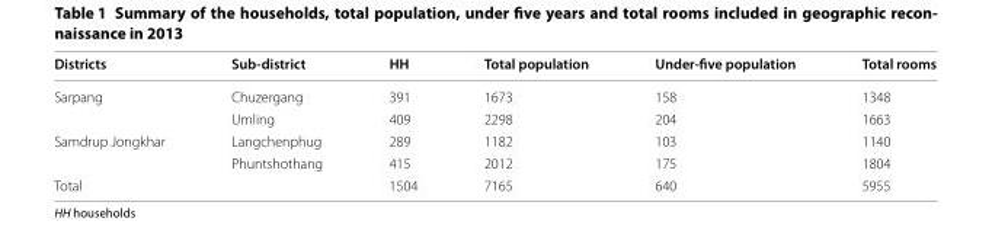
<table><thead><tr><td>Districts</td><td>Sub-district</td><td>HH</td><td>Total population</td><td>Under-five population</td><td>Total rooms</td></tr></thead><tbody><tr><td rowspan="2">Sarpang</td><td>Chuzergang</td><td>391</td><td>1673</td><td>158</td><td>1348</td></tr><tr><td>Umling</td><td>409</td><td>2298</td><td>204</td><td>1663</td></tr><tr><td rowspan="2">Samdrup Jongkhar</td><td>Langchenphug</td><td>289</td><td>1182</td><td>103</td><td>1140</td></tr><tr><td>Phuntshothang</td><td>415</td><td>2012</td><td>175</td><td>1804</td></tr><tr><td colspan="2">Total</td><td>1504</td><td>7165</td><td>640</td><td>5955</td></tr></tbody></table>